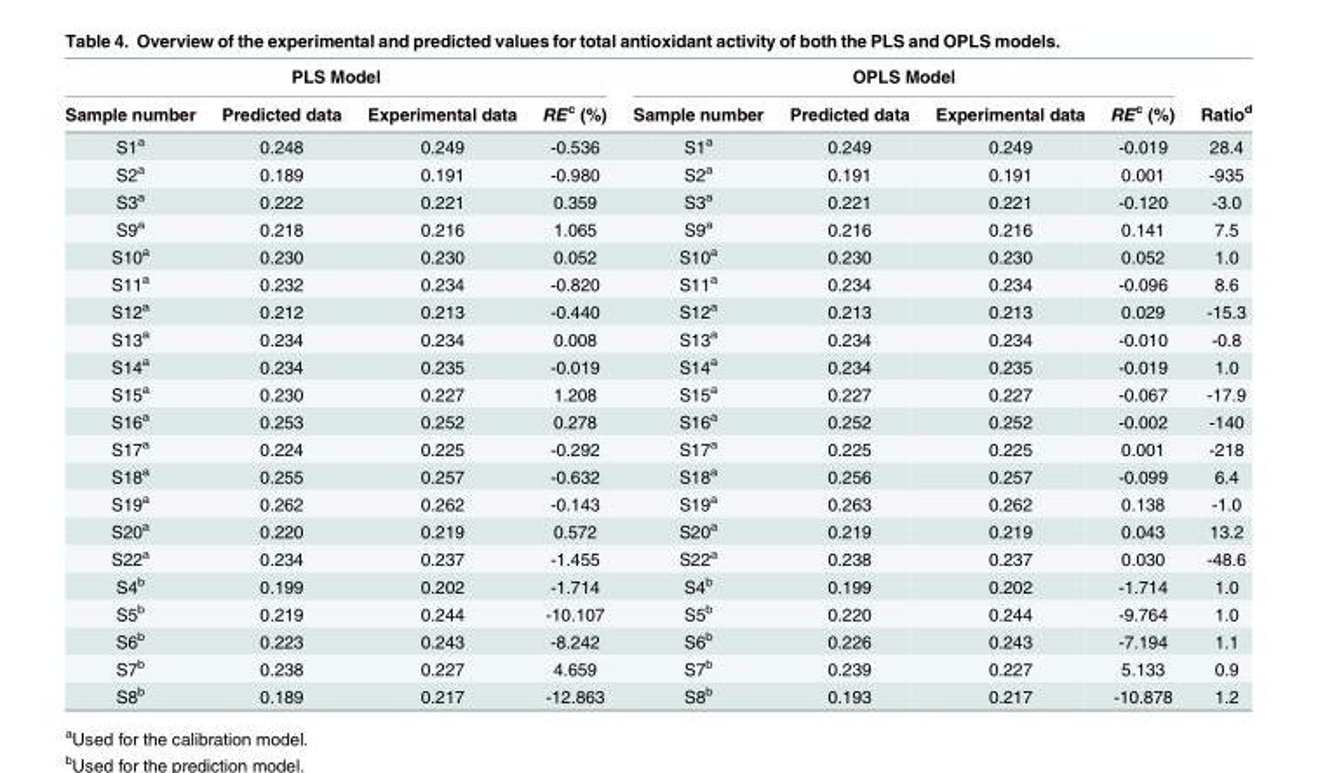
<table><thead><tr><td colspan="4">PLS Model</td><td colspan="4">OPLS Model</td><td rowspan="2">Ratio<sup>d</sup></td></tr><tr><td>Sample number</td><td>Predicted data</td><td>Experimental data</td><td>RE<sup>c</sup> (%)</td><td>Sample number</td><td>Predicted data</td><td>Experimental data</td><td>RE<sup>c</sup> (%)</td></tr></thead><tbody><tr><td>S1<sup>a</sup></td><td>0.248</td><td>0.249</td><td>-0.536</td><td>S1<sup>a</sup></td><td>0.249</td><td>0.249</td><td>-0.019</td><td>28.4</td></tr><tr><td>S2<sup>a</sup></td><td>0.189</td><td>0.191</td><td>-0.980</td><td>S2<sup>a</sup></td><td>0.191</td><td>0.191</td><td>0.001</td><td>-935</td></tr><tr><td>S3<sup>a</sup></td><td>0.222</td><td>0.221</td><td>0.359</td><td>S3<sup>a</sup></td><td>0.221</td><td>0.221</td><td>-0.120</td><td>-3.0</td></tr><tr><td>S9<sup>a</sup></td><td>0.218</td><td>0.216</td><td>1.065</td><td>S9<sup>a</sup></td><td>0.216</td><td>0.216</td><td>0.141</td><td>7.5</td></tr><tr><td>S10<sup>a</sup></td><td>0.230</td><td>0.230</td><td>0.052</td><td>S10<sup>a</sup></td><td>0.230</td><td>0.230</td><td>0.052</td><td>1.0</td></tr><tr><td>S11<sup>a</sup></td><td>0.232</td><td>0.234</td><td>-0.820</td><td>S11<sup>a</sup></td><td>0.234</td><td>0.234</td><td>-0.096</td><td>8.6</td></tr><tr><td>S12<sup>a</sup></td><td>0.212</td><td>0.213</td><td>-0.440</td><td>S12<sup>a</sup></td><td>0.213</td><td>0.213</td><td>0.029</td><td>-15.3</td></tr><tr><td>S13<sup>a</sup></td><td>0.234</td><td>0.234</td><td>0.008</td><td>S13<sup>a</sup></td><td>0.234</td><td>0.234</td><td>-0.010</td><td>-0.8</td></tr><tr><td>S14<sup>a</sup></td><td>0.234</td><td>0.235</td><td>-0.019</td><td>S14<sup>a</sup></td><td>0.234</td><td>0.235</td><td>-0.019</td><td>1.0</td></tr><tr><td>S15<sup>a</sup></td><td>0.230</td><td>0.227</td><td>1.208</td><td>S15<sup>a</sup></td><td>0.227</td><td>0.227</td><td>-0.067</td><td>-17.9</td></tr><tr><td>S16<sup>a</sup></td><td>0.253</td><td>0.252</td><td>0.278</td><td>S16<sup>a</sup></td><td>0.252</td><td>0.252</td><td>-0.002</td><td>-140</td></tr><tr><td>S17<sup>a</sup></td><td>0.224</td><td>0.225</td><td>-0.292</td><td>S17<sup>a</sup></td><td>0.225</td><td>0.225</td><td>0.001</td><td>-218</td></tr><tr><td>S18<sup>a</sup></td><td>0.255</td><td>0.257</td><td>-0.632</td><td>S18<sup>a</sup></td><td>0.256</td><td>0.257</td><td>-0.099</td><td>6.4</td></tr><tr><td>S19<sup>a</sup></td><td>0.262</td><td>0.262</td><td>-0.143</td><td>S19<sup>a</sup></td><td>0.263</td><td>0.262</td><td>0.138</td><td>-1.0</td></tr><tr><td>S20<sup>a</sup></td><td>0.220</td><td>0.219</td><td>0.572</td><td>S20<sup>a</sup></td><td>0.219</td><td>0.219</td><td>0.043</td><td>13.2</td></tr><tr><td>S22<sup>a</sup></td><td>0.234</td><td>0.237</td><td>-1.455</td><td>S22<sup>a</sup></td><td>0.238</td><td>0.237</td><td>0.030</td><td>-48.6</td></tr><tr><td>S4<sup>b</sup></td><td>0.199</td><td>0.202</td><td>-1.714</td><td>S4<sup>b</sup></td><td>0.199</td><td>0.202</td><td>-1.714</td><td>1.0</td></tr><tr><td>S5<sup>b</sup></td><td>0.219</td><td>0.244</td><td>-10.107</td><td>S5<sup>b</sup></td><td>0.220</td><td>0.244</td><td>-9.764</td><td>1.0</td></tr><tr><td>S6<sup>b</sup></td><td>0.223</td><td>0.243</td><td>-8.242</td><td>S6<sup>b</sup></td><td>0.226</td><td>0.243</td><td>-7.194</td><td>1.1</td></tr><tr><td>S7<sup>b</sup></td><td>0.238</td><td>0.227</td><td>4.659</td><td>S7<sup>b</sup></td><td>0.239</td><td>0.227</td><td>5.133</td><td>0.9</td></tr><tr><td>S8<sup>b</sup></td><td>0.189</td><td>0.217</td><td>-12.863</td><td>S8<sup>b</sup></td><td>0.193</td><td>0.217</td><td>-10.878</td><td>1.2</td></tr></tbody></table>